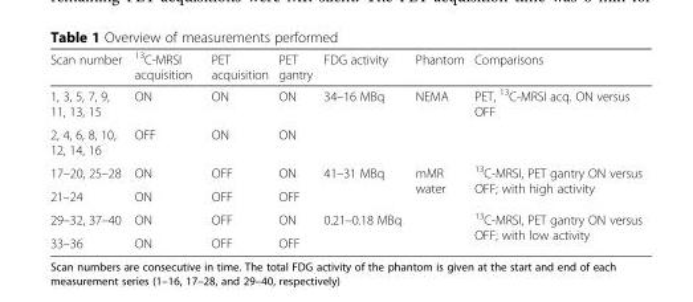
<table><thead><tr><td>Scan number</td><td><sup>13</sup>C-MRSI acquisition</td><td>PET acquisition</td><td>PET gantry</td><td>FDG activity</td><td>Phantom</td><td>Comparisons</td></tr></thead><tbody><tr><td>1, 3, 5, 7, 9, 11, 13, 15</td><td>ON</td><td>ON</td><td>ON</td><td rowspan="2">34–16 MBq</td><td rowspan="2">NEMA</td><td rowspan="2">PET, <sup>13</sup>C-MRSI acq. ON versus OFF</td></tr><tr><td>2, 4, 6, 8, 10, 12, 14, 16</td><td>OFF</td><td>ON</td><td>ON</td></tr><tr><td>17–20, 25–28</td><td>ON</td><td>OFF</td><td>ON</td><td rowspan="2">41–31 MBq</td><td rowspan="4">mMR water</td><td rowspan="2"><sup>13</sup>C-MRSI, PET gantry ON versus OFF; with high activity</td></tr><tr><td>21–24</td><td>ON</td><td>OFF</td><td>OFF</td></tr><tr><td>29–32, 37–40</td><td>ON</td><td>OFF</td><td>ON</td><td rowspan="2">0.21–0.18 MBq</td><td rowspan="2"><sup>13</sup>C-MRSI, PET gantry ON versus OFF; with low activity</td></tr><tr><td>33–36</td><td>ON</td><td>OFF</td><td>OFF</td></tr></tbody></table>